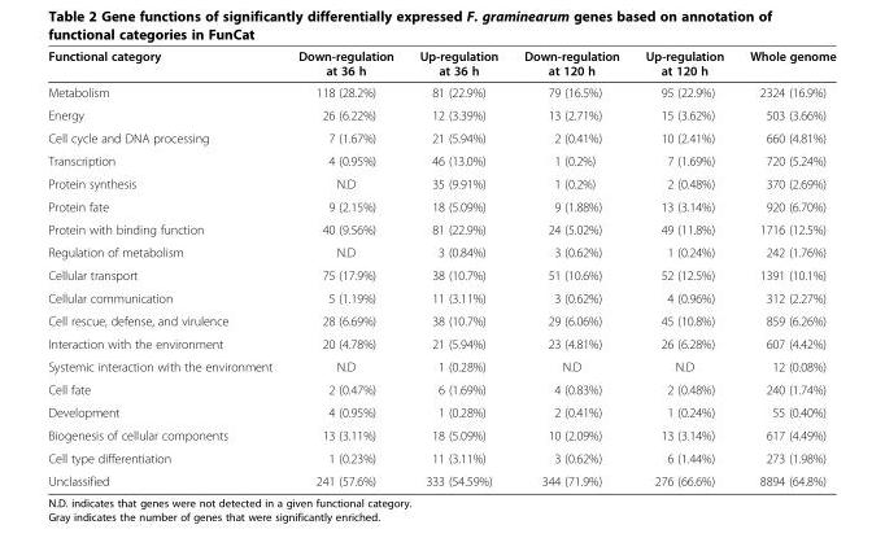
<table><thead><tr><td>Functional category</td><td>Down-regulation at 36 h</td><td>Up-regulation at 36 h</td><td>Down-regulation at 120 h</td><td>Up-regulation at 120 h</td><td>Whole genome</td></tr></thead><tbody><tr><td>Metabolism</td><td>118 (28.2%)</td><td>81 (22.9%)</td><td>79 (16.5%)</td><td>95 (22.9%)</td><td>2324 (16.9%)</td></tr><tr><td>Energy</td><td>26 (6.22%)</td><td>12 (3.39%)</td><td>13 (2.71%)</td><td>15 (3.62%)</td><td>503 (3.66%)</td></tr><tr><td>Cell cycle and DNA processing</td><td>7 (1.67%)</td><td>21 (5.94%)</td><td>2 (0.41%)</td><td>10 (2.41%)</td><td>660 (4.81%)</td></tr><tr><td>Transcription</td><td>4 (0.95%)</td><td>46 (13.0%)</td><td>1 (0.2%)</td><td>7 (1.69%)</td><td>720 (5.24%)</td></tr><tr><td>Protein synthesis</td><td>N.D</td><td>35 (9.91%)</td><td>1 (0.2%)</td><td>2 (0.48%)</td><td>370 (2.69%)</td></tr><tr><td>Protein fate</td><td>9 (2.15%)</td><td>18 (5.09%)</td><td>9 (1.88%)</td><td>13 (3.14%)</td><td>920 (6.70%)</td></tr><tr><td>Protein with binding function</td><td>40 (9.56%)</td><td>81 (22.9%)</td><td>24 (5.02%)</td><td>49 (11.8%)</td><td>1716 (12.5%)</td></tr><tr><td>Regulation of metabolism</td><td>N.D</td><td>3 (0.84%)</td><td>3 (0.62%)</td><td>1 (0.24%)</td><td>242 (1.76%)</td></tr><tr><td>Cellular transport</td><td>75 (17.9%)</td><td>38 (10.7%)</td><td>51 (10.6%)</td><td>52 (12.5%)</td><td>1391 (10.1%)</td></tr><tr><td>Cellular communication</td><td>5 (1.19%)</td><td>11 (3.11%)</td><td>3 (0.62%)</td><td>4 (0.96%)</td><td>312 (2.27%)</td></tr><tr><td>Cell rescue, defense, and virulence</td><td>28 (6.69%)</td><td>38 (10.7%)</td><td>29 (6.06%)</td><td>45 (10.8%)</td><td>859 (6.26%)</td></tr><tr><td>Interaction with the environment</td><td>20 (4.78%)</td><td>21 (5.94%)</td><td>23 (4.81%)</td><td>26 (6.28%)</td><td>607 (4.42%)</td></tr><tr><td>Systemic interaction with the environment</td><td>N.D</td><td>1 (0.28%)</td><td>N.D</td><td>N.D</td><td>12 (0.08%)</td></tr><tr><td>Cell fate</td><td>2 (0.47%)</td><td>6 (1.69%)</td><td>4 (0.83%)</td><td>2 (0.48%)</td><td>240 (1.74%)</td></tr><tr><td>Development</td><td>4 (0.95%)</td><td>1 (0.28%)</td><td>2 (0.41%)</td><td>1 (0.24%)</td><td>55 (0.40%)</td></tr><tr><td>Biogenesis of cellular components</td><td>13 (3.11%)</td><td>18 (5.09%)</td><td>10 (2.09%)</td><td>13 (3.14%)</td><td>617 (4.49%)</td></tr><tr><td>Cell type differentiation</td><td>1 (0.23%)</td><td>11 (3.11%)</td><td>3 (0.62%)</td><td>6 (1.44%)</td><td>273 (1.98%)</td></tr><tr><td>Unclassified</td><td>241 (57.6%)</td><td>333 (54.59%)</td><td>344 (71.9%)</td><td>276 (66.6%)</td><td>8894 (64.8%)</td></tr></tbody></table>